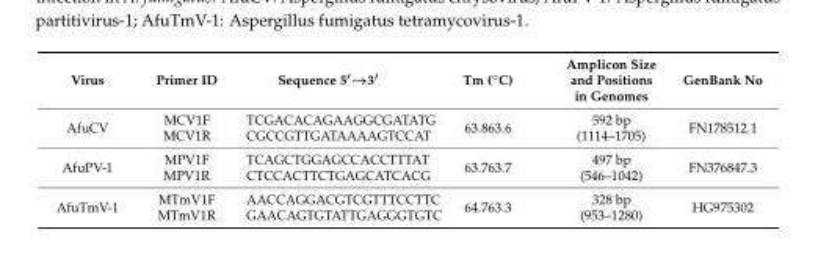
<table><thead><tr><td>Virus</td><td>Primer ID</td><td>Sequence 5′→3′</td><td>Tm (◦C)</td><td>Amplicon Size and Positions in Genomes</td><td>GenBank No</td></tr></thead><tbody><tr><td>AfuCV</td><td>MCV1F MCV1R</td><td>TCGACACAGAAGGCGATATG CGCCGTTGATAAAAGTCCAT</td><td>63.863.6</td><td>592 bp (1114–1705)</td><td>FN178512.1</td></tr><tr><td>AfuPV-1</td><td>MPV1F MPV1R</td><td>TCAGCTGGAGCCACCTTTAT CTCCACTTCTGAGCATCACG</td><td>63.763.7</td><td>497 bp (546–1042)</td><td>FN376847.3</td></tr><tr><td>AfuTmV-1</td><td>MTmV1F MTmV1R</td><td>AACCAGGACGTCGTTTCCTTC GAACAGTGTATTGAGGGTGTC</td><td>64.763.3</td><td>328 bp (953–1280)</td><td>HG975302</td></tr></tbody></table>